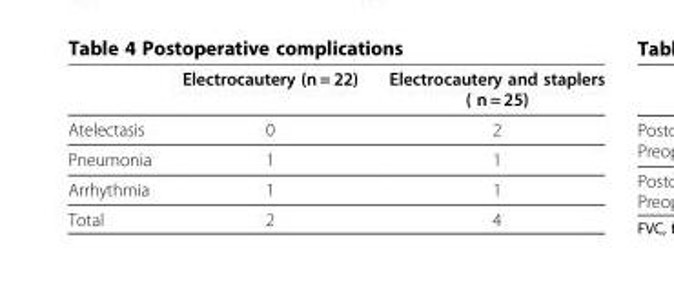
<table><thead><tr><td></td><td>Electrocautery (n = 22)</td><td>Electrocautery and staplers ( n = 25)</td></tr></thead><tbody><tr><td>Atelectasis</td><td>0</td><td>2</td></tr><tr><td>Pneumonia</td><td>1</td><td>1</td></tr><tr><td>Arrhythmia</td><td>1</td><td>1</td></tr><tr><td>Total</td><td>2</td><td>4</td></tr></tbody></table>